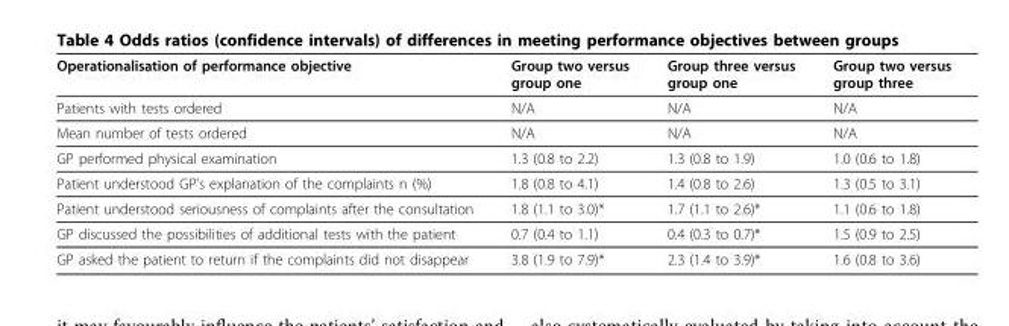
<table><thead><tr><td>Operationalisation of performance objective</td><td>Group two versus group one</td><td>Group three versus group one</td><td>Group two versus group three</td></tr></thead><tbody><tr><td>Patients with tests ordered</td><td>N/A</td><td>N/A</td><td>N/A</td></tr><tr><td>Mean number of tests ordered</td><td>N/A</td><td>N/A</td><td>N/A</td></tr><tr><td>GP performed physical examination</td><td>1.3 (0.8 to 2.2)</td><td>1.3 (0.8 to 1.9)</td><td>1.0 (0.6 to 1.8)</td></tr><tr><td>Patient understood GP’s explanation of the complaints n (%)</td><td>1.8 (0.8 to 4.1)</td><td>1.4 (0.8 to 2.6)</td><td>1.3 (0.5 to 3.1)</td></tr><tr><td>Patient understood seriousness of complaints after the consultation</td><td>1.8 (1.1 to 3.0)*</td><td>1.7 (1.1 to 2.6)*</td><td>1.1 (0.6 to 1.8)</td></tr><tr><td>GP discussed the possibilities of additional tests with the patient</td><td>0.7 (0.4 to 1.1)</td><td>0.4 (0.3 to 0.7)*</td><td>1.5 (0.9 to 2.5)</td></tr><tr><td>GP asked the patient to return if the complaints did not disappear</td><td>3.8 (1.9 to 7.9)*</td><td>2.3 (1.4 to 3.9)*</td><td>1.6 (0.8 to 3.6)</td></tr></tbody></table>